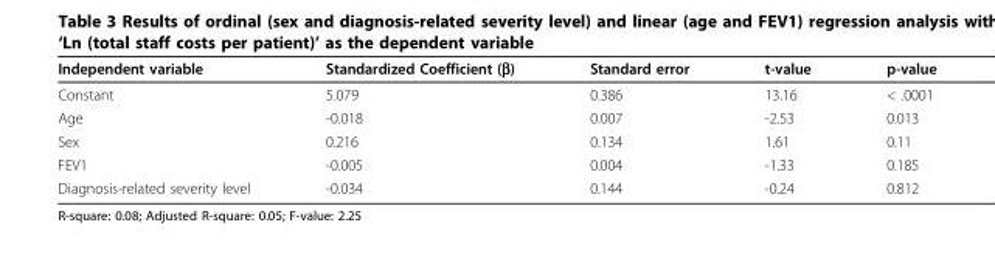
<table><thead><tr><td>Independent variable</td><td>Standardized Coefficient (β)</td><td>Standard error</td><td>t-value</td><td>p-value</td></tr></thead><tbody><tr><td>Constant</td><td>5.079</td><td>0.386</td><td>13.16</td><td>&lt; .0001</td></tr><tr><td>Age</td><td>-0.018</td><td>0.007</td><td>-2.53</td><td>0.013</td></tr><tr><td>Sex</td><td>0.216</td><td>0.134</td><td>1.61</td><td>0.11</td></tr><tr><td>FEV1</td><td>-0.005</td><td>0.004</td><td>-1.33</td><td>0.185</td></tr><tr><td>Diagnosis-related severity level</td><td>-0.034</td><td>0.144</td><td>-0.24</td><td>0.812</td></tr></tbody></table>